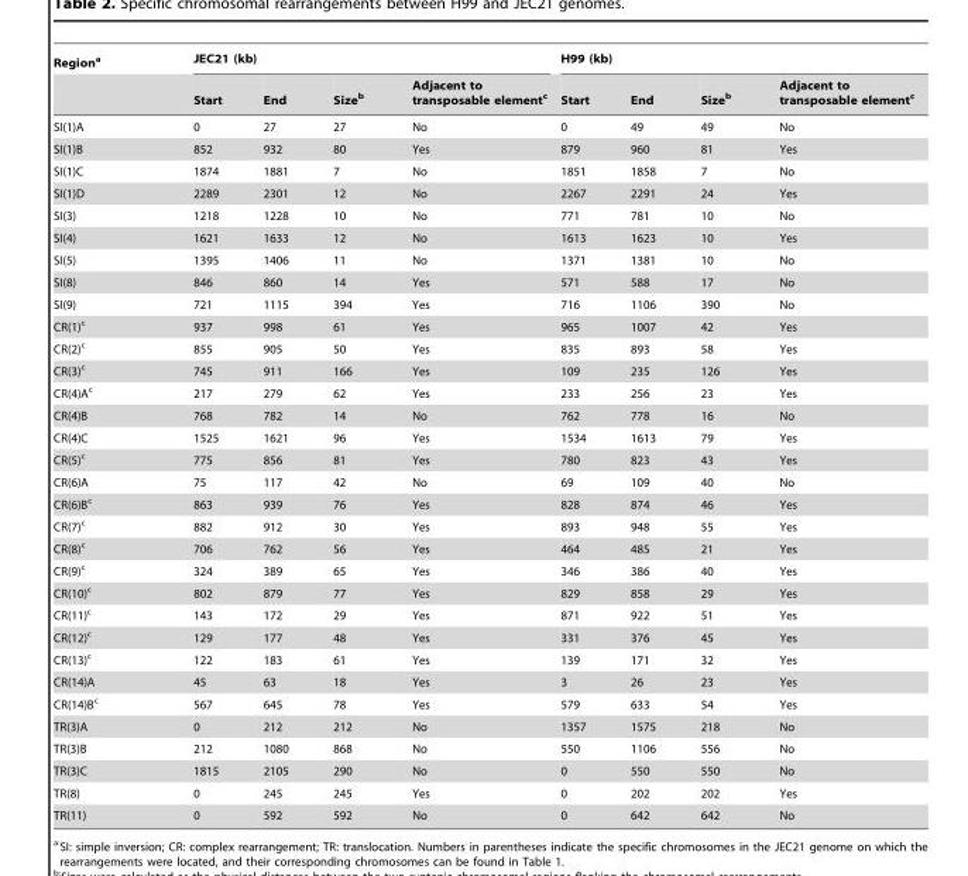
<table><thead><tr><td rowspan="2">Region<sup>a</sup></td><td colspan="4">JEC21 (kb)</td><td colspan="4">H99 (kb)</td></tr><tr><td>Start</td><td>End</td><td>Size<sup>b</sup></td><td>Adjacent to transposable element<sup>c</sup></td><td>Start</td><td>End</td><td>Size<sup>b</sup></td><td>Adjacent to transposable element<sup>c</sup></td></tr></thead><tbody><tr><td>SI(1)A</td><td>0</td><td>27</td><td>27</td><td>No</td><td>0</td><td>49</td><td>49</td><td>No</td></tr><tr><td>SI(1)B</td><td>852</td><td>932</td><td>80</td><td>Yes</td><td>879</td><td>960</td><td>81</td><td>Yes</td></tr><tr><td>SI(1)C</td><td>1874</td><td>1881</td><td>7</td><td>No</td><td>1851</td><td>1858</td><td>7</td><td>No</td></tr><tr><td>SI(1)D</td><td>2289</td><td>2301</td><td>12</td><td>No</td><td>2267</td><td>2291</td><td>24</td><td>Yes</td></tr><tr><td>SI(3)</td><td>1218</td><td>1228</td><td>10</td><td>No</td><td>771</td><td>781</td><td>10</td><td>No</td></tr><tr><td>SI(4)</td><td>1621</td><td>1633</td><td>12</td><td>No</td><td>1613</td><td>1623</td><td>10</td><td>Yes</td></tr><tr><td>SI(5)</td><td>1395</td><td>1406</td><td>11</td><td>No</td><td>1371</td><td>1381</td><td>10</td><td>No</td></tr><tr><td>SI(8)</td><td>846</td><td>860</td><td>14</td><td>Yes</td><td>571</td><td>588</td><td>17</td><td>No</td></tr><tr><td>SI(9)</td><td>721</td><td>1115</td><td>394</td><td>Yes</td><td>716</td><td>1106</td><td>390</td><td>No</td></tr><tr><td>CR(1)<sup>c</sup></td><td>937</td><td>998</td><td>61</td><td>Yes</td><td>965</td><td>1007</td><td>42</td><td>Yes</td></tr><tr><td>CR(2)<sup>c</sup></td><td>855</td><td>905</td><td>50</td><td>Yes</td><td>835</td><td>893</td><td>58</td><td>Yes</td></tr><tr><td>CR(3)<sup>c</sup></td><td>745</td><td>911</td><td>166</td><td>Yes</td><td>109</td><td>235</td><td>126</td><td>Yes</td></tr><tr><td>CR(4)A<sup>c</sup></td><td>217</td><td>279</td><td>62</td><td>Yes</td><td>233</td><td>256</td><td>23</td><td>Yes</td></tr><tr><td>CR(4)B</td><td>768</td><td>782</td><td>14</td><td>No</td><td>762</td><td>778</td><td>16</td><td>No</td></tr><tr><td>CR(4)C</td><td>1525</td><td>1621</td><td>96</td><td>Yes</td><td>1534</td><td>1613</td><td>79</td><td>Yes</td></tr><tr><td>CR(5)<sup>c</sup></td><td>775</td><td>856</td><td>81</td><td>Yes</td><td>780</td><td>823</td><td>43</td><td>Yes</td></tr><tr><td>CR(6)A</td><td>75</td><td>117</td><td>42</td><td>No</td><td>69</td><td>109</td><td>40</td><td>No</td></tr><tr><td>CR(6)B<sup>c</sup></td><td>863</td><td>939</td><td>76</td><td>Yes</td><td>828</td><td>874</td><td>46</td><td>Yes</td></tr><tr><td>CR(7)<sup>c</sup></td><td>882</td><td>912</td><td>30</td><td>Yes</td><td>893</td><td>948</td><td>55</td><td>Yes</td></tr><tr><td>CR(8)<sup>c</sup></td><td>706</td><td>762</td><td>56</td><td>Yes</td><td>464</td><td>485</td><td>21</td><td>Yes</td></tr><tr><td>CR(9)<sup>c</sup></td><td>324</td><td>389</td><td>65</td><td>Yes</td><td>346</td><td>386</td><td>40</td><td>Yes</td></tr><tr><td>CR(10)<sup>c</sup></td><td>802</td><td>879</td><td>77</td><td>Yes</td><td>829</td><td>858</td><td>29</td><td>Yes</td></tr><tr><td>CR(11)<sup>c</sup></td><td>143</td><td>172</td><td>29</td><td>Yes</td><td>871</td><td>922</td><td>51</td><td>Yes</td></tr><tr><td>CR(12)<sup>c</sup></td><td>129</td><td>177</td><td>48</td><td>Yes</td><td>331</td><td>376</td><td>45</td><td>Yes</td></tr><tr><td>CR(13)<sup>c</sup></td><td>122</td><td>183</td><td>61</td><td>Yes</td><td>139</td><td>171</td><td>32</td><td>Yes</td></tr><tr><td>CR(14)A</td><td>45</td><td>63</td><td>18</td><td>Yes</td><td>3</td><td>26</td><td>23</td><td>Yes</td></tr><tr><td>CR(14)B<sup>c</sup></td><td>567</td><td>645</td><td>78</td><td>Yes</td><td>579</td><td>633</td><td>54</td><td>Yes</td></tr><tr><td>TR(3)A</td><td>0</td><td>212</td><td>212</td><td>No</td><td>1357</td><td>1575</td><td>218</td><td>No</td></tr><tr><td>TR(3)B</td><td>212</td><td>1080</td><td>868</td><td>No</td><td>550</td><td>1106</td><td>556</td><td>No</td></tr><tr><td>TR(3)C</td><td>1815</td><td>2105</td><td>290</td><td>No</td><td>0</td><td>550</td><td>550</td><td>No</td></tr><tr><td>TR(8)</td><td>0</td><td>245</td><td>245</td><td>Yes</td><td>0</td><td>202</td><td>202</td><td>Yes</td></tr><tr><td>TR(11)</td><td>0</td><td>592</td><td>592</td><td>No</td><td>0</td><td>642</td><td>642</td><td>No</td></tr></tbody></table>